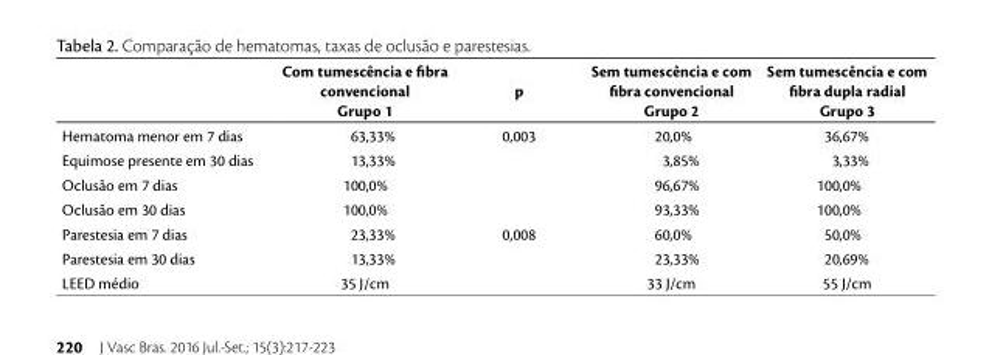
<table><thead><tr><td></td><td>Com tumescência e fibra convencional Grupo 1</td><td>p</td><td>Sem tumescência e com fibra convencional Grupo 2</td><td>Sem tumescência e com fibra dupla radial Grupo 3</td></tr></thead><tbody><tr><td>Hematoma menor em 7 dias</td><td>63,33%</td><td>0,003</td><td>20,0%</td><td>36,67%</td></tr><tr><td>Equimose presente em 30 dias</td><td>13,33%</td><td></td><td>3,85%</td><td>3,33%</td></tr><tr><td>Oclusão em 7 dias</td><td>100,0%</td><td></td><td>96,67%</td><td>100,0%</td></tr><tr><td>Oclusão em 30 dias</td><td>100,0%</td><td></td><td>93,33%</td><td>100,0%</td></tr><tr><td>Parestesia em 7 dias</td><td>23,33%</td><td>0,008</td><td>60,0%</td><td>50,0%</td></tr><tr><td>Parestesia em 30 dias</td><td>13,33%</td><td></td><td>23,33%</td><td>20,69%</td></tr><tr><td>LEED médio</td><td>35 J/cm</td><td></td><td>33 J/cm</td><td>55 J/cm</td></tr></tbody></table>